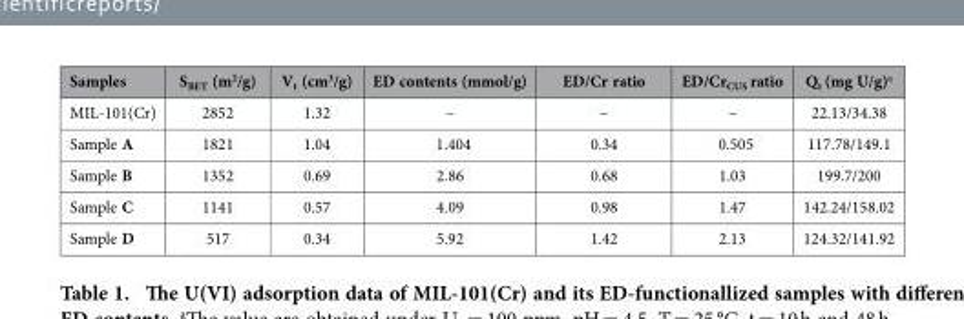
<table><thead><tr><td>Samples</td><td>S<sub>BET</sub> (m<sup>2</sup>/g)</td><td>V<sub>t</sub> (cm<sup>3</sup>/g)</td><td>ED contents (mmol/g)</td><td>ED/Cr ratio</td><td>ED/Cr<sub>CUS</sub> ratio</td><td>Q<sub>t</sub> (mg U/g)<sup>a</sup></td></tr></thead><tbody><tr><td>MIL-101(Cr)</td><td>2852</td><td>1.32</td><td>–</td><td>–</td><td>–</td><td>22.13/34.38</td></tr><tr><td>Sample A</td><td>1821</td><td>1.04</td><td>1.404</td><td>0.34</td><td>0.505</td><td>117.78/149.1</td></tr><tr><td>Sample B</td><td>1352</td><td>0.69</td><td>2.86</td><td>0.68</td><td>1.03</td><td>199.7/200</td></tr><tr><td>Sample C</td><td>1141</td><td>0.57</td><td>4.09</td><td>0.98</td><td>1.47</td><td>142.24/158.02</td></tr><tr><td>Sample D</td><td>517</td><td>0.34</td><td>5.92</td><td>1.42</td><td>2.13</td><td>124.32/141.92</td></tr></tbody></table>